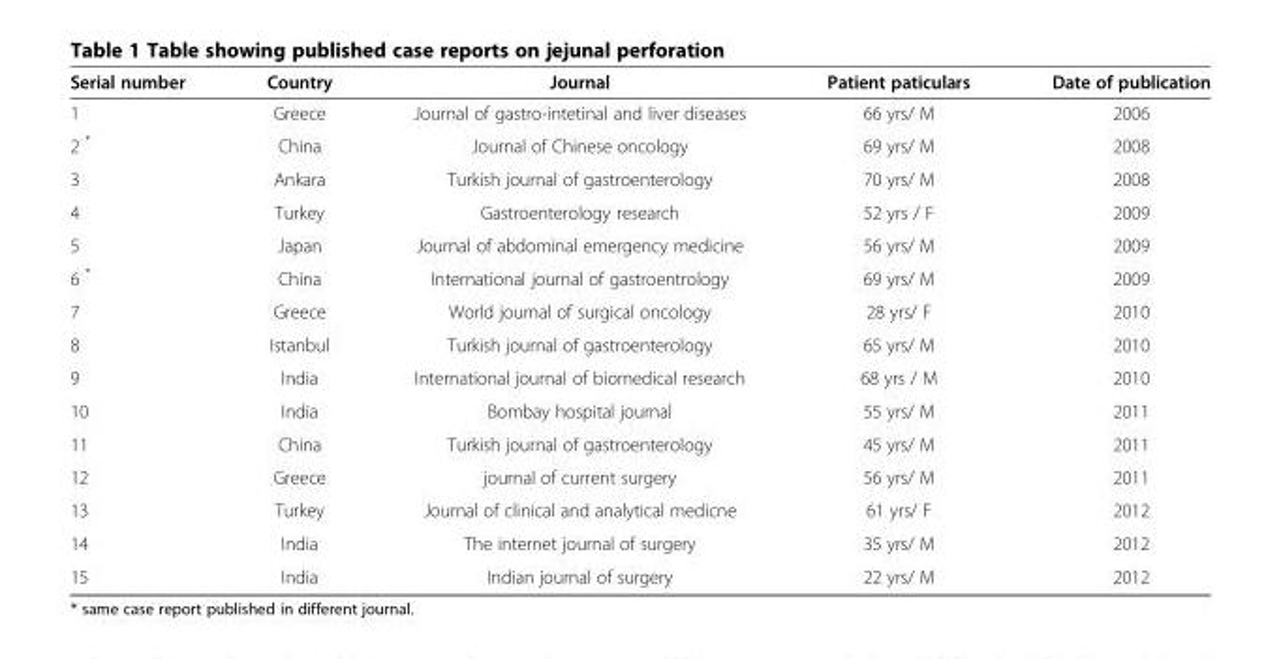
<table><thead><tr><td>Serial number</td><td>Country</td><td>Journal</td><td>Patient paticulars</td><td>Date of publication</td></tr></thead><tbody><tr><td>1</td><td>Greece</td><td>Journal of gastro-intetinal and liver diseases</td><td>66 yrs/ M</td><td>2006</td></tr><tr><td>2 *</td><td>China</td><td>Journal of Chinese oncology</td><td>69 yrs/ M</td><td>2008</td></tr><tr><td>3</td><td>Ankara</td><td>Turkish journal of gastroenterology</td><td>70 yrs/ M</td><td>2008</td></tr><tr><td>4</td><td>Turkey</td><td>Gastroenterology research</td><td>52 yrs / F</td><td>2009</td></tr><tr><td>5</td><td>Japan</td><td>Journal of abdominal emergency medicine</td><td>56 yrs/ M</td><td>2009</td></tr><tr><td>6 *</td><td>China</td><td>International journal of gastroentrology</td><td>69 yrs/ M</td><td>2009</td></tr><tr><td>7</td><td>Greece</td><td>World journal of surgical oncology</td><td>28 yrs/ F</td><td>2010</td></tr><tr><td>8</td><td>Istanbul</td><td>Turkish journal of gastroenterology</td><td>65 yrs/ M</td><td>2010</td></tr><tr><td>9</td><td>India</td><td>International journal of biomedical research</td><td>68 yrs / M</td><td>2010</td></tr><tr><td>10</td><td>India</td><td>Bombay hospital journal</td><td>55 yrs/ M</td><td>2011</td></tr><tr><td>11</td><td>China</td><td>Turkish journal of gastroenterology</td><td>45 yrs/ M</td><td>2011</td></tr><tr><td>12</td><td>Greece</td><td>journal of current surgery</td><td>56 yrs/ M</td><td>2011</td></tr><tr><td>13</td><td>Turkey</td><td>Journal of clinical and analytical medicne</td><td>61 yrs/ F</td><td>2012</td></tr><tr><td>14</td><td>India</td><td>The internet journal of surgery</td><td>35 yrs/ M</td><td>2012</td></tr><tr><td>15</td><td>India</td><td>Indian journal of surgery</td><td>22 yrs/ M</td><td>2012</td></tr></tbody></table>